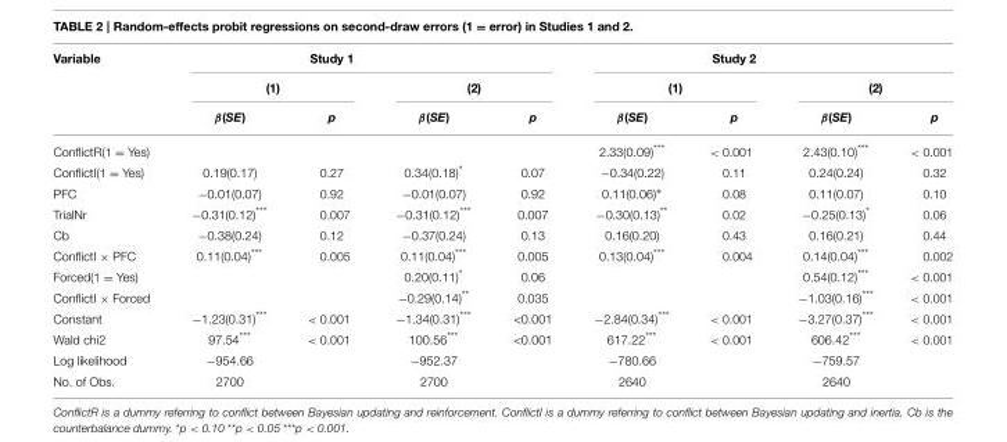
<table><thead><tr><td rowspan="3">Variable</td><td colspan="4">Study 1</td><td colspan="4">Study 2</td></tr><tr><td colspan="2">(1)</td><td colspan="2">(2)</td><td colspan="2">(1)</td><td colspan="2">(2)</td></tr><tr><td>β(SE)</td><td>p</td><td>β(SE)</td><td>p</td><td>β(SE)</td><td>p</td><td>β(SE)</td><td>p</td></tr></thead><tbody><tr><td>ConflictR(1 = Yes)</td><td></td><td></td><td></td><td></td><td>2.33(0.09)***</td><td>&lt; 0.001</td><td>2.43(0.10)***</td><td>&lt; 0.001</td></tr><tr><td>ConflictI(1 = Yes)</td><td>0.19(0.17)</td><td>0.27</td><td>0.34(0.18)*</td><td>0.07</td><td>−0.34(0.22)</td><td>0.11</td><td>0.24(0.24)</td><td>0.32</td></tr><tr><td>PFC</td><td>−0.01(0.07)</td><td>0.92</td><td>−0.01(0.07)</td><td>0.92</td><td>0.11(0.06)∗</td><td>0.08</td><td>0.11(0.07)</td><td>0.10</td></tr><tr><td>TrialNr</td><td>−0.31(0.12)***</td><td>0.007</td><td>−0.31(0.12)***</td><td>0.007</td><td>−0.30(0.13)**</td><td>0.02</td><td>−0.25(0.13)*</td><td>0.06</td></tr><tr><td>Cb</td><td>−0.38(0.24)</td><td>0.12</td><td>−0.37(0.24)</td><td>0.13</td><td>0.16(0.20)</td><td>0.43</td><td>0.16(0.21)</td><td>0.44</td></tr><tr><td>ConflictI × PFC</td><td>0.11(0.04)***</td><td>0.005</td><td>0.11(0.04)***</td><td>0.005</td><td>0.13(0.04)***</td><td>0.004</td><td>0.14(0.04)***</td><td>0.002</td></tr><tr><td>Forced(1 = Yes)</td><td></td><td></td><td>0.20(0.11)*</td><td>0.06</td><td></td><td></td><td>0.54(0.12)***</td><td>&lt; 0.001</td></tr><tr><td>ConflictI × Forced</td><td></td><td></td><td>−0.29(0.14)**</td><td>0.035</td><td></td><td></td><td>−1.03(0.16)***</td><td>&lt; 0.001</td></tr><tr><td>Constant</td><td>−1.23(0.31)***</td><td>&lt; 0.001</td><td>−1.34(0.31)***</td><td>&lt;0.001</td><td>−2.84(0.34)***</td><td>&lt; 0.001</td><td>−3.27(0.37)***</td><td>&lt; 0.001</td></tr><tr><td>Wald chi2</td><td>97.54***</td><td>&lt; 0.001</td><td>100.56***</td><td>&lt;0.001</td><td>617.22***</td><td>&lt; 0.001</td><td>606.42***</td><td>&lt; 0.001</td></tr><tr><td>Log likelihood</td><td>−954.66</td><td></td><td>−952.37</td><td></td><td>−780.66</td><td></td><td>−759.57</td><td></td></tr><tr><td>No. of Obs.</td><td>2700</td><td></td><td>2700</td><td></td><td>2640</td><td></td><td>2640</td><td></td></tr></tbody></table>